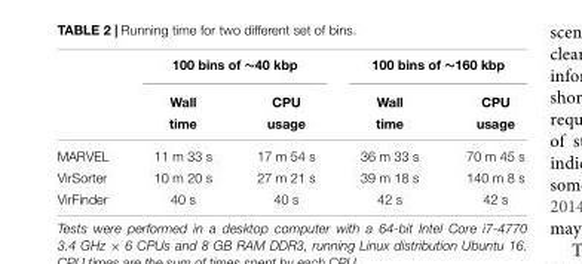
<table><thead><tr><td rowspan="3"></td><td colspan="2">100 bins of ∼40 kbp</td><td colspan="2">100 bins of ∼160 kbp</td></tr><tr><td rowspan="2">Wall time</td><td rowspan="2">CPU usage</td><td rowspan="2">Wall time</td><td rowspan="2">CPU usage</td></tr><tr></tr></thead><tbody><tr><td>MARVEL</td><td>11 m 33 s</td><td>17 m 54 s</td><td>36 m 33 s</td><td>70 m 45 s</td></tr><tr><td>VirSorter</td><td>10 m 20 s</td><td>27 m 21 s</td><td>39 m 18 s</td><td>140 m 8 s</td></tr><tr><td>VirFinder</td><td>40 s</td><td>40 s</td><td>42 s</td><td>42 s</td></tr></tbody></table>